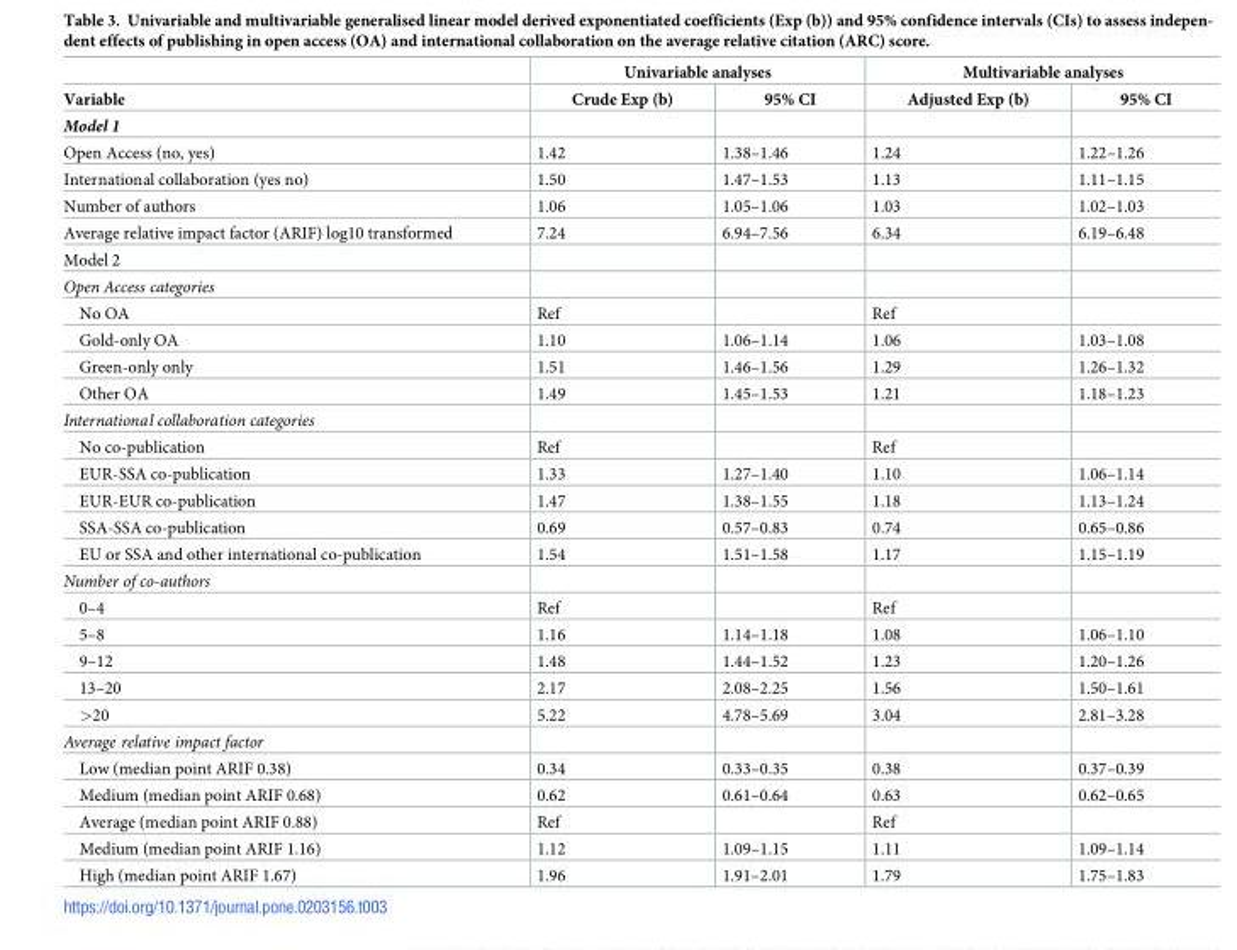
<table><thead><tr><td rowspan="2">Variable</td><td colspan="2">Univariable analyses</td><td colspan="2">Multivariable analyses</td></tr><tr><td>Crude Exp (b)</td><td>95% CI</td><td>Adjusted Exp (b)</td><td>95% CI</td></tr></thead><tbody><tr><td colspan="5">Model 1</td></tr><tr><td>Open Access (no, yes)</td><td>1.42</td><td>1.38–1.46</td><td>1.24</td><td>1.22–1.26</td></tr><tr><td>International collaboration (yes no)</td><td>1.50</td><td>1.47–1.53</td><td>1.13</td><td>1.11–1.15</td></tr><tr><td>Number of authors</td><td>1.06</td><td>1.05–1.06</td><td>1.03</td><td>1.02–1.03</td></tr><tr><td>Average relative impact factor (ARIF) log10 transformed</td><td>7.24</td><td>6.94–7.56</td><td>6.34</td><td>6.19–6.48</td></tr><tr><td colspan="5">Model 2</td></tr><tr><td colspan="5">Open Access categories</td></tr><tr><td>No OA</td><td>Ref</td><td></td><td>Ref</td><td></td></tr><tr><td>Gold-only OA</td><td>1.10</td><td>1.06–1.14</td><td>1.06</td><td>1.03–1.08</td></tr><tr><td>Green-only only</td><td>1.51</td><td>1.46–1.56</td><td>1.29</td><td>1.26–1.32</td></tr><tr><td>Other OA</td><td>1.49</td><td>1.45–1.53</td><td>1.21</td><td>1.18–1.23</td></tr><tr><td colspan="5">International collaboration categories</td></tr><tr><td>No co-publication</td><td>Ref</td><td></td><td>Ref</td><td></td></tr><tr><td>EUR-SSA co-publication</td><td>1.33</td><td>1.27–1.40</td><td>1.10</td><td>1.06–1.14</td></tr><tr><td>EUR-EUR co-publication</td><td>1.47</td><td>1.38–1.55</td><td>1.18</td><td>1.13–1.24</td></tr><tr><td>SSA-SSA co-publication</td><td>0.69</td><td>0.57–0.83</td><td>0.74</td><td>0.65–0.86</td></tr><tr><td>EU or SSA and other international co-publication</td><td>1.54</td><td>1.51–1.58</td><td>1.17</td><td>1.15–1.19</td></tr><tr><td colspan="5">Number of co-authors</td></tr><tr><td>0–4</td><td>Ref</td><td></td><td>Ref</td><td></td></tr><tr><td>5–8</td><td>1.16</td><td>1.14–1.18</td><td>1.08</td><td>1.06–1.10</td></tr><tr><td>9–12</td><td>1.48</td><td>1.44–1.52</td><td>1.23</td><td>1.20–1.26</td></tr><tr><td>13–20</td><td>2.17</td><td>2.08–2.25</td><td>1.56</td><td>1.50–1.61</td></tr><tr><td>&gt;20</td><td>5.22</td><td>4.78–5.69</td><td>3.04</td><td>2.81–3.28</td></tr><tr><td colspan="5">Average relative impact factor</td></tr><tr><td>Low (median point ARIF 0.38)</td><td>0.34</td><td>0.33–0.35</td><td>0.38</td><td>0.37–0.39</td></tr><tr><td>Medium (median point ARIF 0.68)</td><td>0.62</td><td>0.61–0.64</td><td>0.63</td><td>0.62–0.65</td></tr><tr><td>Average (median point ARIF 0.88)</td><td>Ref</td><td></td><td>Ref</td><td></td></tr><tr><td>Medium (median point ARIF 1.16)</td><td>1.12</td><td>1.09–1.15</td><td>1.11</td><td>1.09–1.14</td></tr><tr><td>High (median point ARIF 1.67)</td><td>1.96</td><td>1.91–2.01</td><td>1.79</td><td>1.75–1.83</td></tr></tbody></table>